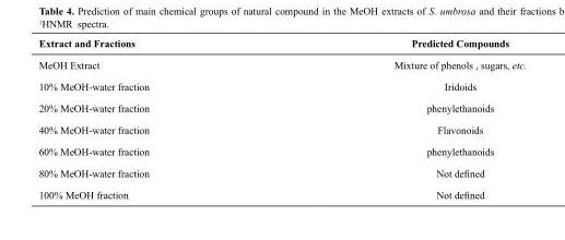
<table><thead><tr><td>Extract and Fractions</td><td>Predicted Compounds</td></tr></thead><tbody><tr><td>MeOH Extract</td><td>Mixture of phenols , sugars, etc.</td></tr><tr><td>10% MeOH-water fraction</td><td>Iridoids</td></tr><tr><td>20% MeOH-water fraction</td><td>phenylethanoids</td></tr><tr><td>40% MeOH-water fraction</td><td>Flavonoids</td></tr><tr><td>60% MeOH-water fraction</td><td>phenylethanoids</td></tr><tr><td>80% MeOH-water fraction</td><td>Not defined</td></tr><tr><td>100% MeOH fraction</td><td>Not defined</td></tr></tbody></table>